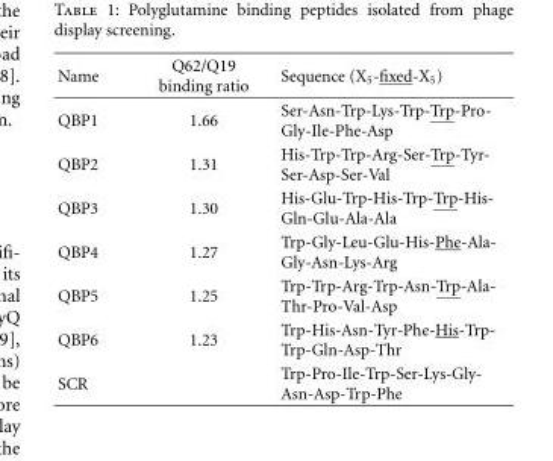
<table><thead><tr><td>Name</td><td>Q62/Q19 binding ratio</td><td>Sequence (X<sub>5</sub>-fixed-X<sub>5</sub>)</td></tr></thead><tbody><tr><td>QBP1</td><td>1.66</td><td>Ser-Asn-Trp-Lys-Trp-Trp-Pro- Gly-Ile-Phe-Asp</td></tr><tr><td>QBP2</td><td>1.31</td><td>His-Trp-Trp-Arg-Ser-Trp-Tyr- Ser-Asp-Ser-Val</td></tr><tr><td>QBP3</td><td>1.30</td><td>His-Glu-Trp-His-Trp-Trp-His- Gln-Glu-Ala-Ala</td></tr><tr><td>QBP4</td><td>1.27</td><td>Trp-Gly-Leu-Glu-His-Phe-Ala- Gly-Asn-Lys-Arg</td></tr><tr><td>QBP5</td><td>1.25</td><td>Trp-Trp-Arg-Trp-Asn-Trp-Ala- Thr-Pro-Val-Asp</td></tr><tr><td>QBP6</td><td>1.23</td><td>Trp-His-Asn-Tyr-Phe-His-Trp- Trp-Gln-Asp-Thr</td></tr><tr><td>SCR</td><td></td><td>Trp-Pro-Ile-Trp-Ser-Lys-Gly- Asn-Asp-Trp-Phe</td></tr></tbody></table>